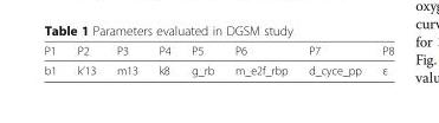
<table><thead><tr><td>P1</td><td>P2</td><td>P3</td><td>P4</td><td>P5</td><td>P6</td><td>P7</td><td>P8</td></tr></thead><tbody><tr><td>b1</td><td>k’13</td><td>m13</td><td>k8</td><td>g_rb</td><td>m_e2f_rbp</td><td>d_cyce_pp</td><td>ε</td></tr></tbody></table>